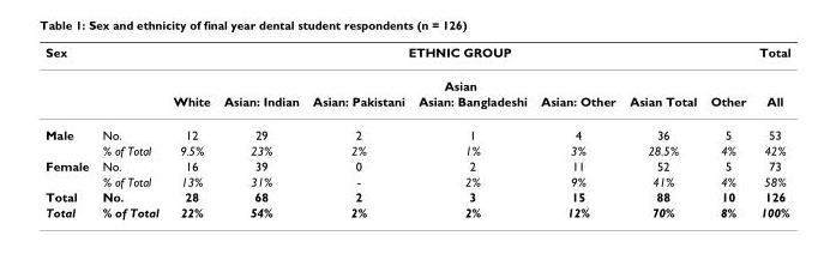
<table><thead><tr><td rowspan="3">Sex</td><td rowspan="3"></td><td colspan="7">ETHNIC GROUP</td><td rowspan="3">Total All</td></tr><tr><td rowspan="2">White</td><td colspan="5">Asian</td><td rowspan="2">Other</td></tr><tr><td>Asian: Indian</td><td>Asian: Pakistani</td><td>Asian: Bangladeshi</td><td>Asian: Other</td><td>Asian Total</td></tr></thead><tbody><tr><td rowspan="2">Male</td><td>No.</td><td>12</td><td>29</td><td>2</td><td>1</td><td>4</td><td>36</td><td>5</td><td>53</td></tr><tr><td>% of Total</td><td>9.5%</td><td>23%</td><td>2%</td><td>1%</td><td>3%</td><td>28.5%</td><td>4%</td><td>42%</td></tr><tr><td rowspan="2">Female</td><td>No.</td><td>16</td><td>39</td><td>0</td><td>2</td><td>11</td><td>52</td><td>5</td><td>73</td></tr><tr><td>% of Total</td><td>13%</td><td>31%</td><td>-</td><td>2%</td><td>9%</td><td>41%</td><td>4%</td><td>58%</td></tr><tr><td>Total</td><td>No.</td><td>28</td><td>68</td><td>2</td><td>3</td><td>15</td><td>88</td><td>10</td><td>126</td></tr><tr><td>Total</td><td>% of Total</td><td>22%</td><td>54%</td><td>2%</td><td>2%</td><td>12%</td><td>70%</td><td>8%</td><td>100%</td></tr></tbody></table>